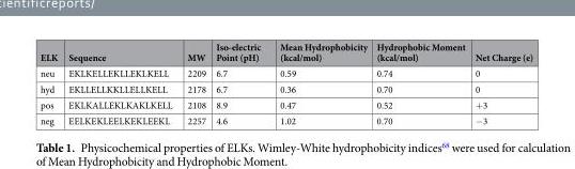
<table><thead><tr><td>ELK</td><td>Sequence</td><td>MW</td><td>Iso-electric Point (pH)</td><td>Mean Hydrophobicity (kcal/mol)</td><td>Hydrophobic Moment (kcal/mol)</td><td>Net Charge (e)</td></tr></thead><tbody><tr><td>neu</td><td>EKLKELLEKLLEKLKELL</td><td>2209</td><td>6.7</td><td>0.59</td><td>0.74</td><td>0</td></tr><tr><td>hyd</td><td>EKLLELLKKLLELLKELL</td><td>2178</td><td>6.7</td><td>0.36</td><td>0.70</td><td>0</td></tr><tr><td>pos</td><td>EKLKALLEKLKAKLKELL</td><td>2108</td><td>8.9</td><td>0.47</td><td>0.52</td><td>+3</td></tr><tr><td>neg</td><td>EELKEKLEELKEKLEEKL</td><td>2257</td><td>4.6</td><td>1.02</td><td>0.70</td><td>−3</td></tr></tbody></table>